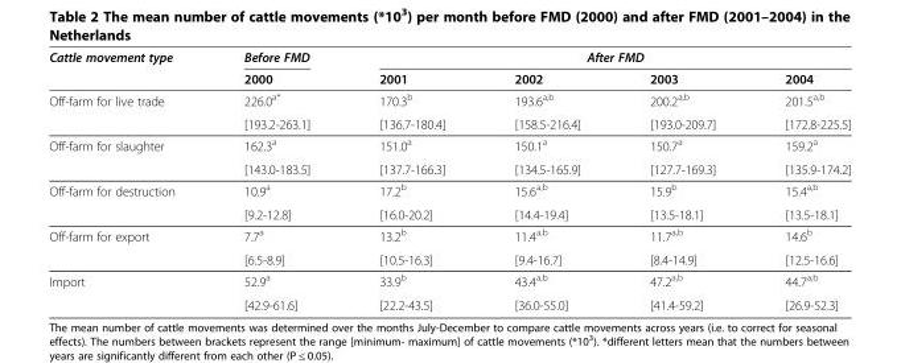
<table><thead><tr><td rowspan="2">Cattle movement type</td><td rowspan="2">Before FMD 2000</td><td colspan="4">After FMD</td></tr><tr><td>2001</td><td>2002</td><td>2003</td><td>2004</td></tr></thead><tbody><tr><td rowspan="2">Off-farm for live trade</td><td>226.0<sup>a*</sup></td><td>170.3<sup>b</sup></td><td>193.6<sup>a,b</sup></td><td>200.2<sup>a,b</sup></td><td>201.5<sup>a,b</sup></td></tr><tr><td>[193.2-263.1]</td><td>[136.7-180.4]</td><td>[158.5-216.4]</td><td>[193.0-209.7]</td><td>[172.8-225.5]</td></tr><tr><td rowspan="2">Off-farm for slaughter</td><td>162.3<sup>a</sup></td><td>151.0<sup>a</sup></td><td>150.1<sup>a</sup></td><td>150.7<sup>a</sup></td><td>159.2<sup>a</sup></td></tr><tr><td>[143.0-183.5]</td><td>[137.7-166.3]</td><td>[134.5-165.9]</td><td>[127.7-169.3]</td><td>[135.9-174.2]</td></tr><tr><td rowspan="2">Off-farm for destruction</td><td>10.9<sup>a</sup></td><td>17.2<sup>b</sup></td><td>15.6<sup>a,b</sup></td><td>15.9<sup>b</sup></td><td>15.4<sup>a,b</sup></td></tr><tr><td>[9.2-12.8]</td><td>[16.0-20.2]</td><td>[14.4-19.4]</td><td>[13.5-18.1]</td><td>[13.5-18.1]</td></tr><tr><td rowspan="2">Off-farm for export</td><td>7.7<sup>a</sup></td><td>13.2<sup>b</sup></td><td>11.4<sup>a,b</sup></td><td>11.7<sup>a,b</sup></td><td>14.6<sup>b</sup></td></tr><tr><td>[6.5-8.9]</td><td>[10.5-16.3]</td><td>[9.4-16.7]</td><td>[8.4-14.9]</td><td>[12.5-16.6]</td></tr><tr><td rowspan="2">Import</td><td>52.9<sup>a</sup></td><td>33.9<sup>b</sup></td><td>43.4<sup>a,b</sup></td><td>47.2<sup>a,b</sup></td><td>44.7<sup>a,b</sup></td></tr><tr><td>[42.9-61.6]</td><td>[22.2-43.5]</td><td>[36.0-55.0]</td><td>[41.4-59.2]</td><td>[26.9-52.3]</td></tr></tbody></table>